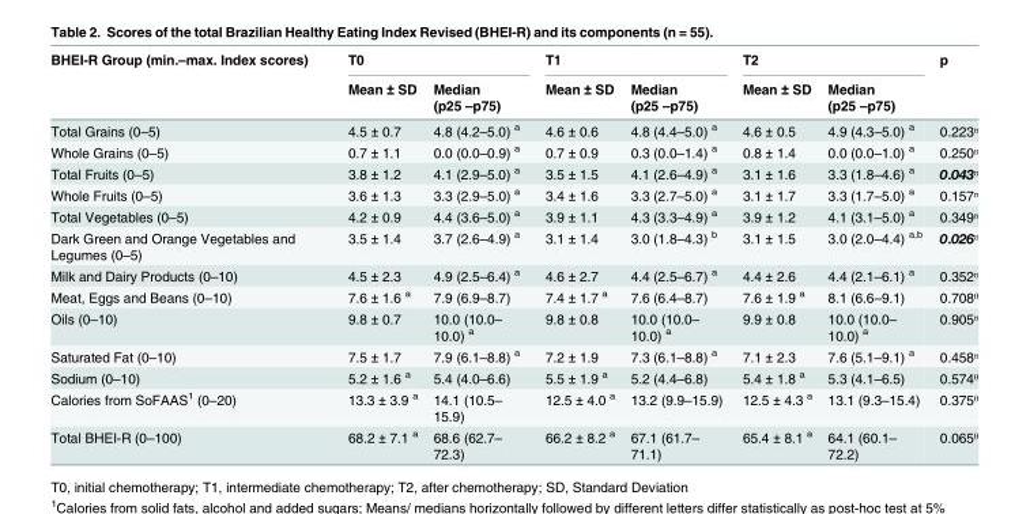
<table><thead><tr><td rowspan="2">BHEI-R Group (min.–max. Index scores)</td><td colspan="2">T0</td><td colspan="2">T1</td><td colspan="2">T2</td><td rowspan="2">p</td></tr><tr><td>Mean ± SD</td><td>Median (p25 –p75)</td><td>Mean ± SD</td><td>Median (p25 –p75)</td><td>Mean ± SD</td><td>Median (p25 –p75)</td></tr></thead><tbody><tr><td>Total Grains (0–5)</td><td>4.5 ± 0.7</td><td>4.8 (4.2–5.0) <sup>a</sup></td><td>4.6 ± 0.6</td><td>4.8 (4.4–5.0) <sup>a</sup></td><td>4.6 ± 0.5</td><td>4.9 (4.3–5.0) <sup>a</sup></td><td>0.223ᶷ</td></tr><tr><td>Whole Grains (0–5)</td><td>0.7 ± 1.1</td><td>0.0 (0.0–0.9) <sup>a</sup></td><td>0.7 ± 0.9</td><td>0.3 (0.0–1.4) <sup>a</sup></td><td>0.8 ± 1.4</td><td>0.0 (0.0–1.0) <sup>a</sup></td><td>0.250ᶷ</td></tr><tr><td>Total Fruits (0–5)</td><td>3.8 ± 1.2</td><td>4.1 (2.9–5.0) <sup>a</sup></td><td>3.5 ± 1.5</td><td>4.1 (2.6–4.9) <sup>a</sup></td><td>3.1 ± 1.6</td><td>3.3 (1.8–4.6) <sup>a</sup></td><td>0.043ᶷ</td></tr><tr><td>Whole Fruits (0–5)</td><td>3.6 ± 1.3</td><td>3.3 (2.9–5.0) <sup>a</sup></td><td>3.4 ± 1.6</td><td>3.3 (2.7–5.0) <sup>a</sup></td><td>3.1 ± 1.7</td><td>3.3 (1.7–5.0) <sup>a</sup></td><td>0.157ᶷ</td></tr><tr><td>Total Vegetables (0–5)</td><td>4.2 ± 0.9</td><td>4.4 (3.6–5.0) <sup>a</sup></td><td>3.9 ± 1.1</td><td>4.3 (3.3–4.9) <sup>a</sup></td><td>3.9 ± 1.2</td><td>4.1 (3.1–5.0) <sup>a</sup></td><td>0.349ᶷ</td></tr><tr><td>Dark Green and Orange Vegetables and Legumes (0–5)</td><td>3.5 ± 1.4</td><td>3.7 (2.6–4.9) <sup>a</sup></td><td>3.1 ± 1.4</td><td>3.0 (1.8–4.3) <sup>b</sup></td><td>3.1 ± 1.5</td><td>3.0 (2.0–4.4) <sup>a,b</sup></td><td>0.026ᶷ</td></tr><tr><td>Milk and Dairy Products (0–10)</td><td>4.5 ± 2.3</td><td>4.9 (2.5–6.4) <sup>a</sup></td><td>4.6 ± 2.7</td><td>4.4 (2.5–6.7) <sup>a</sup></td><td>4.4 ± 2.6</td><td>4.4 (2.1–6.1) <sup>a</sup></td><td>0.352ᶷ</td></tr><tr><td>Meat, Eggs and Beans (0–10)</td><td>7.6 ± 1.6 <sup>a</sup></td><td>7.9 (6.9–8.7)</td><td>7.4 ± 1.7 <sup>a</sup></td><td>7.6 (6.4–8.7)</td><td>7.6 ± 1.9 <sup>a</sup></td><td>8.1 (6.6–9.1)</td><td>0.708ᶿ</td></tr><tr><td>Oils (0–10)</td><td>9.8 ± 0.7</td><td>10.0 (10.0– 10.0) <sup>a</sup></td><td>9.8 ± 0.8</td><td>10.0 (10.0– 10.0) <sup>a</sup></td><td>9.9 ± 0.8</td><td>10.0 (10.0– 10.0) <sup>a</sup></td><td>0.905ᶷ</td></tr><tr><td>Saturated Fat (0–10)</td><td>7.5 ± 1.7</td><td>7.9 (6.1–8.8) <sup>a</sup></td><td>7.2 ± 1.9</td><td>7.3 (6.1–8.8) <sup>a</sup></td><td>7.1 ± 2.3</td><td>7.6 (5.1–9.1) <sup>a</sup></td><td>0.458ᶷ</td></tr><tr><td>Sodium (0–10)</td><td>5.2 ± 1.6 <sup>a</sup></td><td>5.4 (4.0–6.6)</td><td>5.5 ± 1.9 <sup>a</sup></td><td>5.2 (4.4–6.8)</td><td>5.4 ± 1.8 <sup>a</sup></td><td>5.3 (4.1–6.5)</td><td>0.574ᶿ</td></tr><tr><td>Calories from SoFAAS<sup>1</sup> (0–20)</td><td>13.3 ± 3.9 <sup>a</sup></td><td>14.1 (10.5– 15.9)</td><td>12.5 ± 4.0 <sup>a</sup></td><td>13.2 (9.9–15.9)</td><td>12.5 ± 4.3 <sup>a</sup></td><td>13.1 (9.3–15.4)</td><td>0.375ᶿ</td></tr><tr><td>Total BHEI-R (0–100)</td><td>68.2 ± 7.1 <sup>a</sup></td><td>68.6 (62.7– 72.3)</td><td>66.2 ± 8.2 <sup>a</sup></td><td>67.1 (61.7– 71.1)</td><td>65.4 ± 8.1 <sup>a</sup></td><td>64.1 (60.1– 72.2)</td><td>0.065ᶿ</td></tr></tbody></table>